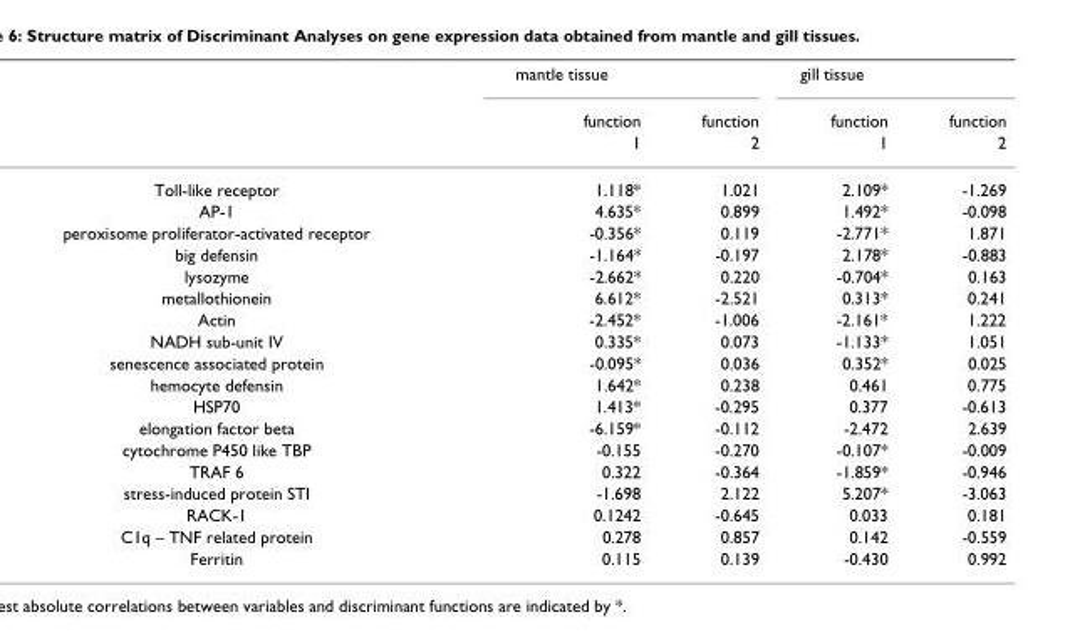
<table><thead><tr><td rowspan="3"></td><td rowspan="3">mantle tissue function 1</td><td rowspan="3">function 2</td><td rowspan="3">gill tissue function 1</td><td rowspan="3">function 2</td></tr><tr></tr><tr></tr></thead><tbody><tr><td>Toll-like receptor</td><td>1.118*</td><td>1.021</td><td>2.109*</td><td>-1.269</td></tr><tr><td>AP-1</td><td>4.635*</td><td>0.899</td><td>1.492*</td><td>-0.098</td></tr><tr><td>peroxisome proliferator-activated receptor</td><td>-0.356*</td><td>0.119</td><td>-2.771*</td><td>1.871</td></tr><tr><td>big defensin</td><td>-1.164*</td><td>-0.197</td><td>2.178*</td><td>-0.883</td></tr><tr><td>lysozyme</td><td>-2.662*</td><td>0.220</td><td>-0.704*</td><td>0.163</td></tr><tr><td>metallothionein</td><td>6.612*</td><td>-2.521</td><td>0.313*</td><td>0.241</td></tr><tr><td>Actin</td><td>-2.452*</td><td>-1.006</td><td>-2.161*</td><td>1.222</td></tr><tr><td>NADH sub-unit IV</td><td>0.335*</td><td>0.073</td><td>-1.133*</td><td>1.051</td></tr><tr><td>senescence associated protein</td><td>-0.095*</td><td>0.036</td><td>0.352*</td><td>0.025</td></tr><tr><td>hemocyte defensin</td><td>1.642*</td><td>0.238</td><td>0.461</td><td>0.775</td></tr><tr><td>HSP70</td><td>1.413*</td><td>-0.295</td><td>0.377</td><td>-0.613</td></tr><tr><td>elongation factor beta</td><td>-6.159*</td><td>-0.112</td><td>-2.472</td><td>2.639</td></tr><tr><td>cytochrome P450 like TBP</td><td>-0.155</td><td>-0.270</td><td>-0.107*</td><td>-0.009</td></tr><tr><td>TRAF 6</td><td>0.322</td><td>-0.364</td><td>-1.859*</td><td>-0.946</td></tr><tr><td>stress-induced protein STI</td><td>-1.698</td><td>2.122</td><td>5.207*</td><td>-3.063</td></tr><tr><td>RACK-1</td><td>0.1242</td><td>-0.645</td><td>0.033</td><td>0.181</td></tr><tr><td>C1q – TNF related protein</td><td>0.278</td><td>0.857</td><td>0.142</td><td>-0.559</td></tr><tr><td>Ferritin</td><td>0.115</td><td>0.139</td><td>-0.430</td><td>0.992</td></tr></tbody></table>